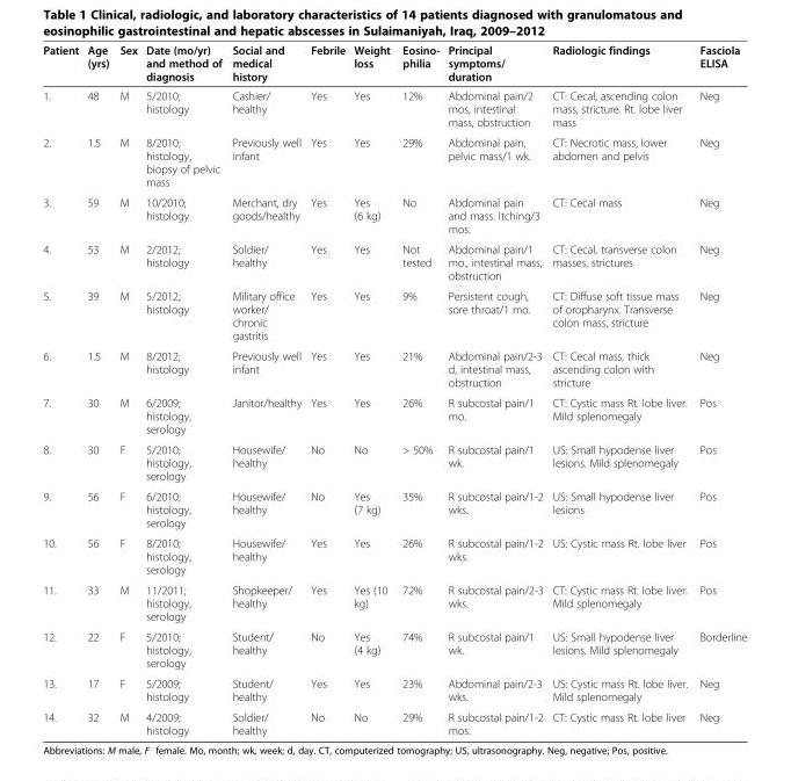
<table><thead><tr><td>Patient</td><td>Age (yrs)</td><td>Sex</td><td>Date (mo/yr) and method of diagnosis</td><td>Social and medical history</td><td>Febrile</td><td>Weight loss</td><td>Eosino- philia</td><td>Principal symptoms/ duration</td><td>Radiologic findings</td><td>Fasciola ELISA</td></tr></thead><tbody><tr><td>1.</td><td>48</td><td>M</td><td>5/2010; histology</td><td>Cashier/ healthy</td><td>Yes</td><td>Yes</td><td>12%</td><td>Abdominal pain/2 mos, intestinal mass, obstruction</td><td>CT: Cecal, ascending colon mass, stricture. Rt. lobe liver mass</td><td>Neg</td></tr><tr><td>2.</td><td>1.5</td><td>M</td><td>8/2010; histology, biopsy of pelvic mass</td><td>Previously well infant</td><td>Yes</td><td>Yes</td><td>29%</td><td>Abdominal pain, pelvic mass/1 wk.</td><td>CT: Necrotic mass, lower abdomen and pelvis</td><td>Neg</td></tr><tr><td>3.</td><td>59</td><td>M</td><td>10/2010; histology</td><td>Merchant, dry goods/healthy</td><td>Yes</td><td>Yes (6 kg)</td><td>No</td><td>Abdominal pain and mass. Itching/3 mos.</td><td>CT: Cecal mass</td><td>Neg</td></tr><tr><td>4.</td><td>53</td><td>M</td><td>2/2012; histology</td><td>Soldier/ healthy</td><td>Yes</td><td>Yes</td><td>Not tested</td><td>Abdominal pain/1 mo., intestinal mass, obstruction</td><td>CT: Cecal, transverse colon masses, strictures</td><td>Neg</td></tr><tr><td>5.</td><td>39</td><td>M</td><td>5/2012; histology</td><td>Military office worker/ chronic gastritis</td><td>Yes</td><td>Yes</td><td>9%</td><td>Persistent cough, sore throat/1 mo.</td><td>CT: Diffuse soft tissue mass of oropharynx. Transverse colon mass, stricture</td><td>Neg</td></tr><tr><td>6.</td><td>1.5</td><td>M</td><td>8/2012; histology</td><td>Previously well infant</td><td>Yes</td><td>Yes</td><td>21%</td><td>Abdominal pain/2-3 d, intestinal mass, obstruction</td><td>CT: Cecal mass, thick ascending colon with stricture</td><td>Neg</td></tr><tr><td>7.</td><td>30</td><td>M</td><td>6/2009; histology, serology</td><td>Janitor/healthy</td><td>Yes</td><td>Yes</td><td>26%</td><td>R subcostal pain/1 mo.</td><td>CT: Cystic mass Rt. lobe liver. Mild splenomegaly</td><td>Pos</td></tr><tr><td>8.</td><td>30</td><td>F</td><td>5/2010; histology, serology</td><td>Housewife/ healthy</td><td>No</td><td>No</td><td>&gt; 50%</td><td>R subcostal pain/1 wk.</td><td>US: Small hypodense liver lesions. Mild splenomegaly</td><td>Pos</td></tr><tr><td>9.</td><td>56</td><td>F</td><td>6/2010; histology, serology</td><td>Housewife/ healthy</td><td>No</td><td>Yes (7 kg)</td><td>35%</td><td>R subcostal pain/1-2 wks.</td><td>US: Small hypodense liver lesions</td><td>Pos</td></tr><tr><td>10.</td><td>56</td><td>F</td><td>8/2010; histology, serology</td><td>Housewife/ healthy</td><td>Yes</td><td>Yes</td><td>26%</td><td>R subcostal pain/1-2 wks.</td><td>US: Cystic mass Rt. lobe liver</td><td>Pos</td></tr><tr><td>11.</td><td>33</td><td>M</td><td>11/2011; histology, serology</td><td>Shopkeeper/ healthy</td><td>Yes</td><td>Yes (10 kg)</td><td>72%</td><td>R subcostal pain/2-3 wks.</td><td>CT: Cystic mass Rt. lobe liver. Mild splenomegaly</td><td>Pos</td></tr><tr><td>12.</td><td>22</td><td>F</td><td>5/2010; histology, serology</td><td>Student/ healthy</td><td>No</td><td>Yes (4 kg)</td><td>74%</td><td>R subcostal pain/1 wk.</td><td>US: Small hypodense liver lesions. Mild splenomegaly</td><td>Borderline</td></tr><tr><td>13.</td><td>17</td><td>F</td><td>5/2009; histology</td><td>Student/ healthy</td><td>Yes</td><td>Yes</td><td>23%</td><td>Abdominal pain/2-3 wks.</td><td>US: Cystic mass Rt. lobe liver. Mild splenomegaly</td><td>Neg</td></tr><tr><td>14.</td><td>32</td><td>M</td><td>4/2009; histology</td><td>Soldier/ healthy</td><td>No</td><td>No</td><td>29%</td><td>R subcostal pain/1-2 mos.</td><td>CT: Cystic mass Rt. lobe liver</td><td>Neg</td></tr></tbody></table>